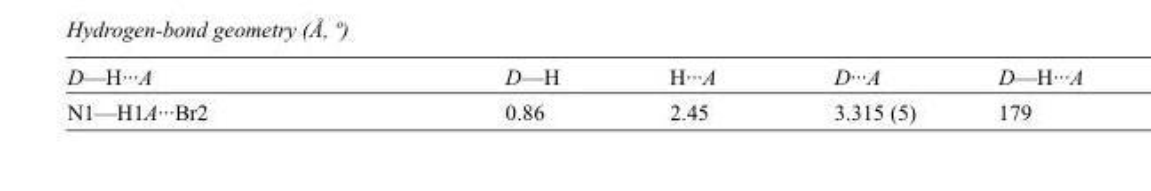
<table><tbody><tr><td>D—H···A</td><td>D—H</td><td>H···A</td><td>D···A</td><td>D—H···A</td></tr><tr><td>N1—H1A···Br2</td><td>0.86</td><td>2.45</td><td>3.315 (5)</td><td>179</td></tr></tbody></table>